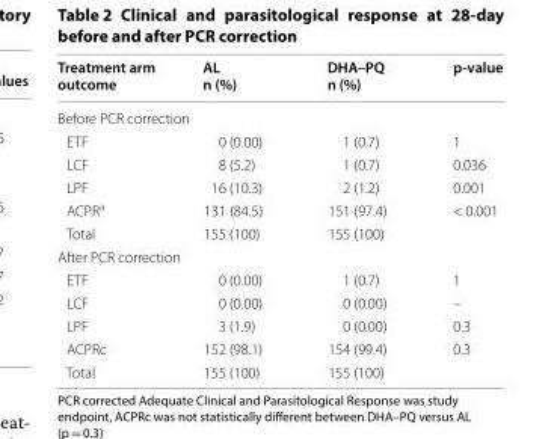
<table><thead><tr><td>Treatment arm outcome</td><td>AL n (%)</td><td>DHA–PQ n (%)</td><td>p‑value</td></tr></thead><tbody><tr><td colspan="4">Before PCR correction</td></tr><tr><td>ETF</td><td>0 (0.00)</td><td>1 (0.7)</td><td>1</td></tr><tr><td>LCF</td><td>8 (5.2)</td><td>1 (0.7)</td><td>0.036</td></tr><tr><td>LPF</td><td>16 (10.3)</td><td>2 (1.2)</td><td>0.001</td></tr><tr><td>ACPR<sup>a</sup></td><td>131 (84.5)</td><td>151 (97.4)</td><td>&lt; 0.001</td></tr><tr><td>Total</td><td>155 (100)</td><td>155 (100)</td><td></td></tr><tr><td colspan="4">After PCR correction</td></tr><tr><td>ETF</td><td>0 (0.00)</td><td>1 (0.7)</td><td>1</td></tr><tr><td>LCF</td><td>0 (0.00)</td><td>0 (0.00)</td><td>–</td></tr><tr><td>LPF</td><td>3 (1.9)</td><td>0 (0.00)</td><td>0.3</td></tr><tr><td>ACPRc</td><td>152 (98.1)</td><td>154 (99.4)</td><td>0.3</td></tr><tr><td>Total</td><td>155 (100)</td><td>155 (100)</td><td></td></tr></tbody></table>